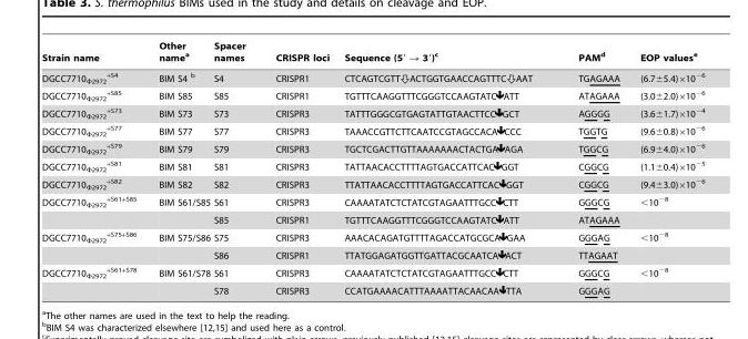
<table><thead><tr><td>Strain name</td><td>Other name<sup>a</sup></td><td>Spacer names</td><td>CRISPR loci</td><td>Sequence (5′ → 3′)<sup>c</sup></td><td>PAM<sup>d</sup></td><td>EOP values<sup>e</sup></td></tr></thead><tbody><tr><td>DGCC7710<sub>Φ2972</sub> <sup>+S4</sup></td><td>BIM S4 b</td><td>S4</td><td>CRISPR1</td><td>CTCAGTCGTTKACTGGTGAACCAGTTTCKAAT</td><td>TGAGAAA</td><td>(6.7±5.4)×10<sup>−6</sup></td></tr><tr><td>DGCC7710<sub>Φ2972</sub> <sup>+S85</sup></td><td>BIM S85</td><td>S85</td><td>CRISPR1</td><td>TGTTTCAAGGTTTCGGGTCCAAGTATC ATT</td><td>ATAGAAA</td><td>(3.0±2.0)×10<sup>−6</sup></td></tr><tr><td>DGCC7710<sub>Φ2972</sub> <sup>+S73</sup></td><td>BIM S73</td><td>S73</td><td>CRISPR3</td><td>TATTTGGGCGTGAGTATTGTAACTTCC GCT</td><td>AGGGG</td><td>(3.6±1.7)×10<sup>−4</sup></td></tr><tr><td>DGCC7710<sub>Φ2972</sub> <sup>+S77</sup></td><td>BIM S77</td><td>S77</td><td>CRISPR3</td><td>TAAACCGTTCTTCAATCCGTAGCCACA CCC</td><td>TGGTG</td><td>(9.6±0.8)×10<sup>−6</sup></td></tr><tr><td>DGCC7710<sub>Φ2972</sub> <sup>+S79</sup></td><td>BIM S79</td><td>S79</td><td>CRISPR3</td><td>TGCTCGACTTGTTAAAAAAACTACTGA AGA</td><td>TGGCG</td><td>(6.9±4.0)×10<sup>−6</sup></td></tr><tr><td>DGCC7710<sub>Φ2972</sub> <sup>+S81</sup></td><td>BIM S81</td><td>S81</td><td>CRISPR3</td><td>TATTAACACCTTTTAGTGACCATTCAC GGT</td><td>CGGCG</td><td>(1.1±0.4)×10<sup>−5</sup></td></tr><tr><td>DGCC7710<sub>Φ2972</sub> <sup>+S82</sup></td><td>BIM S82</td><td>S82</td><td>CRISPR3</td><td>TTATTAACACCTTTTAGTGACCATTCAC GGT</td><td>CGGCG</td><td>(9.4±3.0)×10<sup>−6</sup></td></tr><tr><td rowspan="2">DGCC7710<sub>Φ2972</sub> <sup>+S61+S85</sup></td><td>BIM S61/S85</td><td>S61</td><td>CRISPR3</td><td>CAAAATATCTCTATCGTAGAATTTGCC CTT</td><td>GGGCG</td><td>&lt;10<sup>−8</sup></td></tr><tr><td></td><td>S85</td><td>CRISPR1</td><td>TGTTTCAAGGTTTCGGGTCCAAGTATC ATT</td><td>ATAGAAA</td><td></td></tr><tr><td rowspan="2">DGCC7710<sub>Φ2972</sub> <sup>+S75+S86</sup></td><td>BIM S75/S86</td><td>S75</td><td>CRISPR3</td><td>AAACACAGATGTTTTAGACCATGCGCA GAA</td><td>GGGAG</td><td>&lt;10<sup>−8</sup></td></tr><tr><td></td><td>S86</td><td>CRISPR1</td><td>TTATGGAGATGGTTGATTACGCAATCA ACT</td><td>TTAGAAT</td><td></td></tr><tr><td rowspan="2">DGCC7710<sub>Φ2972</sub> <sup>+S61+S78</sup></td><td>BIM S61/S78</td><td>S61</td><td>CRISPR3</td><td>CAAAATATCTCTATCGTAGAATTTGCC CTT</td><td>GGGCG</td><td>&lt;10<sup>−8</sup></td></tr><tr><td></td><td>S78</td><td>CRISPR3</td><td>CCATGAAAACATTTAAAATTACAACAA TTA</td><td>GGGAG</td><td></td></tr></tbody></table>